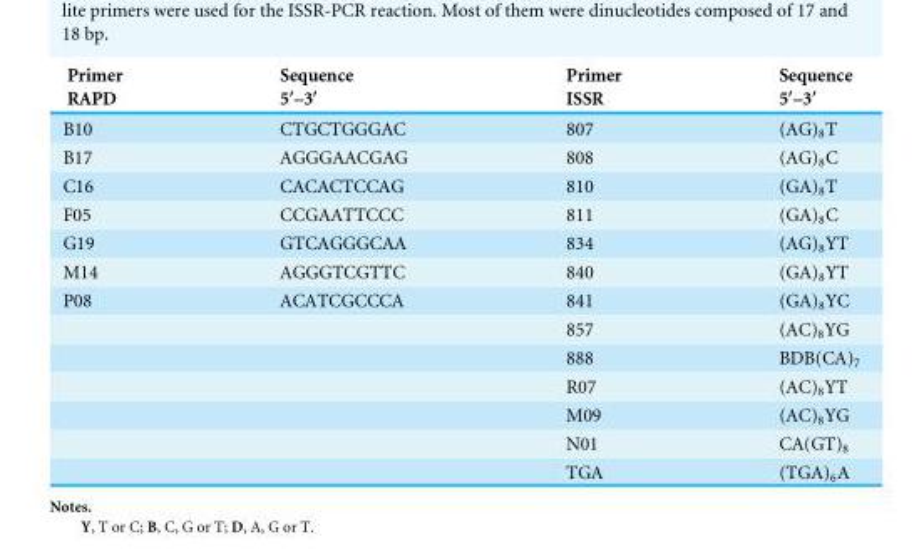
<table><thead><tr><td rowspan="2">Primer RAPD</td><td rowspan="2">Sequence 5′–3′</td><td rowspan="2">Primer ISSR</td><td rowspan="2">Sequence 5′–3′</td></tr><tr></tr></thead><tbody><tr><td>B10</td><td>CTGCTGGGAC</td><td>807</td><td>(AG)<sub>8</sub>T</td></tr><tr><td>B17</td><td>AGGGAACGAG</td><td>808</td><td>(AG)<sub>8</sub>C</td></tr><tr><td>C16</td><td>CACACTCCAG</td><td>810</td><td>(GA)<sub>8</sub>T</td></tr><tr><td>F05</td><td>CCGAATTCCC</td><td>811</td><td>(GA)<sub>8</sub>C</td></tr><tr><td>G19</td><td>GTCAGGGCAA</td><td>834</td><td>(AG)<sub>8</sub>YT</td></tr><tr><td>M14</td><td>AGGGTCGTTC</td><td>840</td><td>(GA)<sub>8</sub>YT</td></tr><tr><td rowspan="7">P08</td><td>ACATCGCCCA</td><td>841</td><td>(GA)<sub>8</sub>YC</td></tr><tr><td></td><td>857</td><td>(AC)<sub>8</sub>YG</td></tr><tr><td></td><td>888</td><td>BDB(CA)<sub>7</sub></td></tr><tr><td></td><td>R07</td><td>(AC)<sub>8</sub>YT</td></tr><tr><td></td><td>M09</td><td>(AC)<sub>8</sub>YG</td></tr><tr><td></td><td>N01</td><td>CA(GT)<sub>8</sub></td></tr><tr><td></td><td>TGA</td><td>(TGA)<sub>6</sub>A</td></tr></tbody></table>